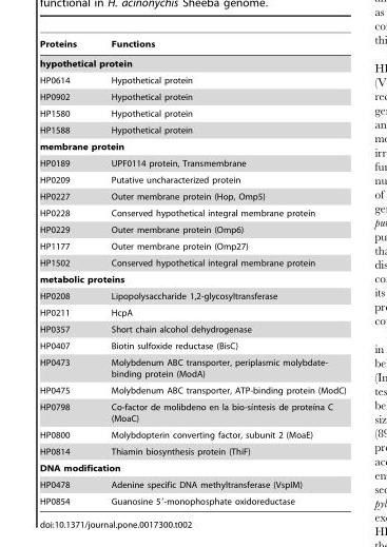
<table><thead><tr><td>Proteins</td><td>Functions</td></tr></thead><tbody><tr><td colspan="2">hypothetical protein</td></tr><tr><td>HP0614</td><td>Hypothetical protein</td></tr><tr><td>HP0902</td><td>Hypothetical protein</td></tr><tr><td>HP1580</td><td>Hypothetical protein</td></tr><tr><td>HP1588</td><td>Hypothetical protein</td></tr><tr><td colspan="2">membrane protein</td></tr><tr><td>HP0189</td><td>UPF0114 protein, Transmembrane</td></tr><tr><td>HP0209</td><td>Putative uncharacterized protein</td></tr><tr><td>HP0227</td><td>Outer membrane protein (Hop, Omp5)</td></tr><tr><td>HP0228</td><td>Conserved hypothetical integral membrane protein</td></tr><tr><td>HP0229</td><td>Outer membrane protein (Omp6)</td></tr><tr><td>HP1177</td><td>Outer membrane protein (Omp27)</td></tr><tr><td>HP1502</td><td>Conserved hypothetical integral membrane protein</td></tr><tr><td colspan="2">metabolic proteins</td></tr><tr><td>HP0208</td><td>Lipopolysaccharide 1,2-glycosyltransferase</td></tr><tr><td>HP0211</td><td>HcpA</td></tr><tr><td>HP0357</td><td>Short chain alcohol dehydrogenase</td></tr><tr><td>HP0407</td><td>Biotin sulfoxide reductase (BisC)</td></tr><tr><td>HP0473</td><td>Molybdenum ABC transporter, periplasmic molybdate- binding protein (ModA)</td></tr><tr><td>HP0475</td><td>Molybdenum ABC transporter, ATP-binding protein (ModC)</td></tr><tr><td>HP0798</td><td>Co-factor de molibdeno en la bio-sı´ntesis de proteı´na C (MoaC)</td></tr><tr><td>HP0800</td><td>Molybdopterin converting factor, subunit 2 (MoaE)</td></tr><tr><td>HP0814</td><td>Thiamin biosynthesis protein (ThiF)</td></tr><tr><td colspan="2">DNA modification</td></tr><tr><td>HP0478</td><td>Adenine specific DNA methyltransferase (VspIM)</td></tr><tr><td>HP0854</td><td>Guanosine 5′-monophosphate oxidoreductase</td></tr></tbody></table>